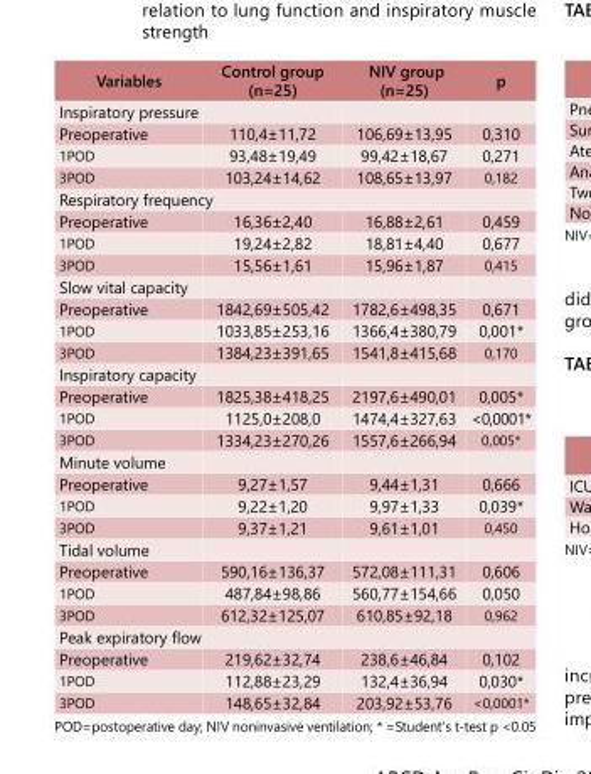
<table><tbody><tr><td>Variables</td><td>Control group (n=25)</td><td>NIV group (n=25)</td><td>p</td></tr><tr><td colspan="4">Inspiratory pressure</td></tr><tr><td>Preoperative</td><td>110,4±11,72</td><td>106,69±13,95</td><td>0,310</td></tr><tr><td>1POD</td><td>93,48±19,49</td><td>99,42±18,67</td><td>0,271</td></tr><tr><td>3POD</td><td>103,24±14,62</td><td>108,65±13,97</td><td>0,182</td></tr><tr><td colspan="4">Respiratory frequency</td></tr><tr><td>Preoperative</td><td>16,36±2,40</td><td>16,88±2,61</td><td>0,459</td></tr><tr><td>1POD</td><td>19,24±2,82</td><td>18,81±4,40</td><td>0,677</td></tr><tr><td>3POD</td><td>15,56±1,61</td><td>15,96±1,87</td><td>0,415</td></tr><tr><td colspan="4">Slow vital capacity</td></tr><tr><td>Preoperative</td><td>1842,69±505,42</td><td>1782,6±498,35</td><td>0,671</td></tr><tr><td>1POD</td><td>1033,85±253,16</td><td>1366,4±380,79</td><td>0,001*</td></tr><tr><td>3POD</td><td>1384,23±391,65</td><td>1541,8±415,68</td><td>0,170</td></tr><tr><td colspan="4">Inspiratory capacity</td></tr><tr><td>Preoperative</td><td>1825,38±418,25</td><td>2197,6±490,01</td><td>0,005*</td></tr><tr><td>1POD</td><td>1125,0±208,0</td><td>1474,4±327,63</td><td>&lt;0,0001*</td></tr><tr><td>3POD</td><td>1334,23±270,26</td><td>1557,6±266,94</td><td>0,005*</td></tr><tr><td colspan="4">Minute volume</td></tr><tr><td>Preoperative</td><td>9,27±1,57</td><td>9,44±1,31</td><td>0,666</td></tr><tr><td>1POD</td><td>9,22±1,20</td><td>9,97±1,33</td><td>0,039*</td></tr><tr><td>3POD</td><td>9,37±1,21</td><td>9,61±1,01</td><td>0,450</td></tr><tr><td colspan="4">Tidal volume</td></tr><tr><td>Preoperative</td><td>590,16±136,37</td><td>572,08±111,31</td><td>0,606</td></tr><tr><td>1POD</td><td>487,84±98,86</td><td>560,77±154,66</td><td>0,050</td></tr><tr><td>3POD</td><td>612,32±125,07</td><td>610,85±92,18</td><td>0,962</td></tr><tr><td colspan="4">Peak expiratory flow</td></tr><tr><td>Preoperative</td><td>219,62±32,74</td><td>238,6±46,84</td><td>0,102</td></tr><tr><td>1POD</td><td>112,88±23,29</td><td>132,4±36,94</td><td>0,030*</td></tr><tr><td>3POD</td><td>148,65±32,84</td><td>203,92±53,76</td><td>&lt;0,0001*</td></tr></tbody></table>